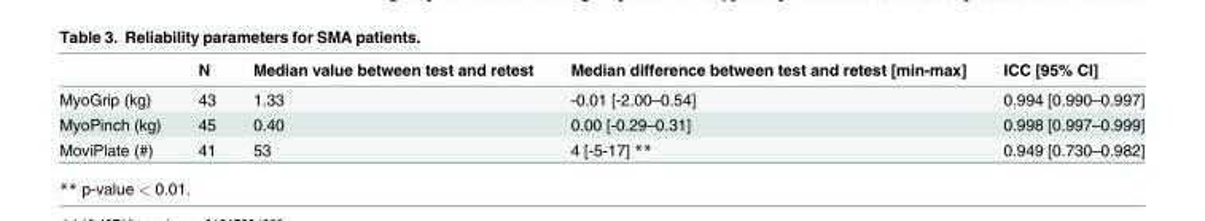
<table><thead><tr><td></td><td>N</td><td>Median value between test and retest</td><td>Median difference between test and retest [min-max]</td><td>ICC [95% CI]</td></tr></thead><tbody><tr><td>MyoGrip (kg)</td><td>43</td><td>1.33</td><td>-0.01 [-2.00–0.54]</td><td>0.994 [0.990–0.997]</td></tr><tr><td>MyoPinch (kg)</td><td>45</td><td>0.40</td><td>0.00 [-0.29–0.31]</td><td>0.998 [0.997–0.999]</td></tr><tr><td>MoviPlate (#)</td><td>41</td><td>53</td><td>4 [-5-17] **</td><td>0.949 [0.730–0.982]</td></tr></tbody></table>